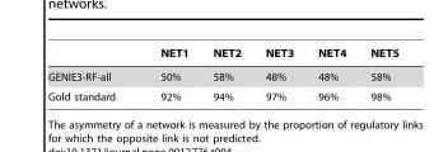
<table><thead><tr><td></td><td>NET1</td><td>NET2</td><td>NET3</td><td>NET4</td><td>NET5</td></tr></thead><tbody><tr><td>GENIE3-RF-all</td><td>50%</td><td>58%</td><td>48%</td><td>48%</td><td>58%</td></tr><tr><td>Gold standard</td><td>92%</td><td>94%</td><td>97%</td><td>96%</td><td>98%</td></tr></tbody></table>